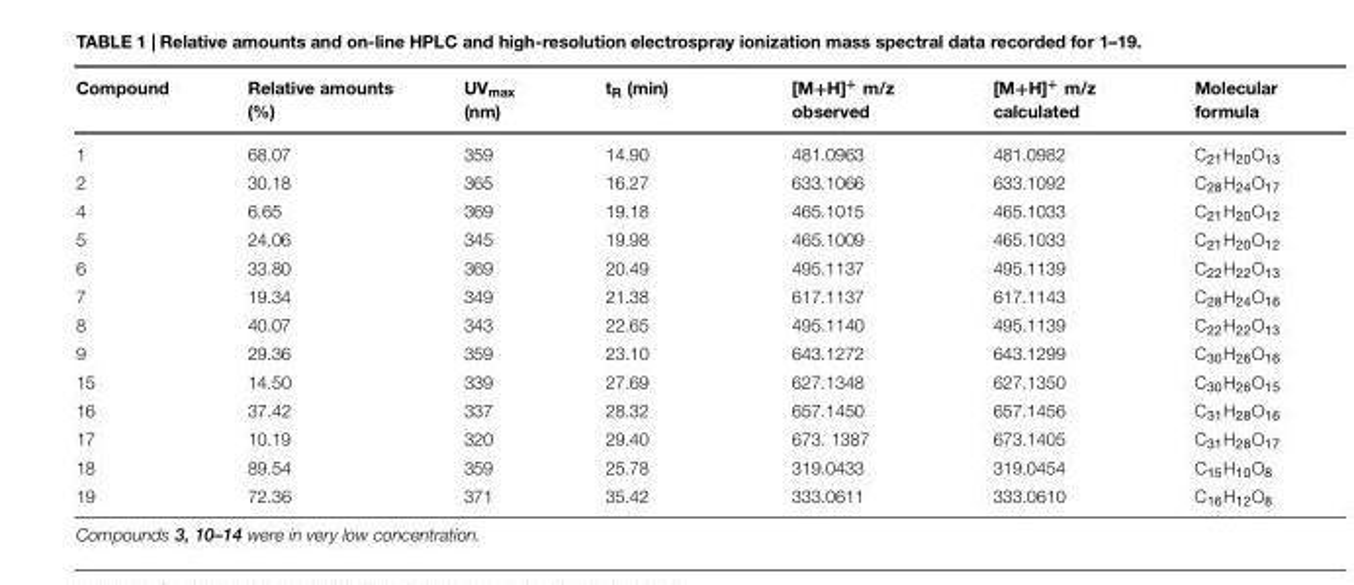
<table><thead><tr><td>Compound</td><td>Relative amounts (%)</td><td>UV<sub>max</sub> (nm)</td><td>t<sub>R</sub> (min)</td><td>[M+H]<sup>+</sup> m/z observed</td><td>[M+H]<sup>+</sup> m/z calculated</td><td>Molecular formula</td></tr></thead><tbody><tr><td>1</td><td>68.07</td><td>359</td><td>14.90</td><td>481.0963</td><td>481.0982</td><td>C<sub>21</sub>H<sub>20</sub>O<sub>13</sub></td></tr><tr><td>2</td><td>30.18</td><td>365</td><td>16.27</td><td>633.1066</td><td>633.1092</td><td>C<sub>28</sub>H<sub>24</sub>O<sub>17</sub></td></tr><tr><td>4</td><td>6.65</td><td>369</td><td>19.18</td><td>465.1015</td><td>465.1033</td><td>C<sub>21</sub>H<sub>20</sub>O<sub>12</sub></td></tr><tr><td>5</td><td>24.06</td><td>345</td><td>19.98</td><td>465.1009</td><td>465.1033</td><td>C<sub>21</sub>H<sub>20</sub>O<sub>12</sub></td></tr><tr><td>6</td><td>33.80</td><td>369</td><td>20.49</td><td>495.1137</td><td>495.1139</td><td>C<sub>22</sub>H<sub>22</sub>O<sub>13</sub></td></tr><tr><td>7</td><td>19.34</td><td>349</td><td>21.38</td><td>617.1137</td><td>617.1143</td><td>C<sub>28</sub>H<sub>24</sub>O<sub>16</sub></td></tr><tr><td>8</td><td>40.07</td><td>343</td><td>22.65</td><td>495.1140</td><td>495.1139</td><td>C<sub>22</sub>H<sub>22</sub>O<sub>13</sub></td></tr><tr><td>9</td><td>29.36</td><td>359</td><td>23.10</td><td>643.1272</td><td>643.1299</td><td>C<sub>30</sub>H<sub>26</sub>O<sub>16</sub></td></tr><tr><td>15</td><td>14.50</td><td>339</td><td>27.69</td><td>627.1348</td><td>627.1350</td><td>C<sub>30</sub>H<sub>26</sub>O<sub>15</sub></td></tr><tr><td>16</td><td>37.42</td><td>337</td><td>28.32</td><td>657.1450</td><td>657.1456</td><td>C<sub>31</sub>H<sub>28</sub>O<sub>16</sub></td></tr><tr><td>17</td><td>10.19</td><td>320</td><td>29.40</td><td>673. 1387</td><td>673.1405</td><td>C<sub>31</sub>H<sub>28</sub>O<sub>17</sub></td></tr><tr><td>18</td><td>89.54</td><td>359</td><td>25.78</td><td>319.0433</td><td>319.0454</td><td>C<sub>15</sub>H<sub>10</sub>O<sub>8</sub></td></tr><tr><td>19</td><td>72.36</td><td>371</td><td>35.42</td><td>333.0611</td><td>333.0610</td><td>C<sub>16</sub>H<sub>12</sub>O<sub>8</sub></td></tr></tbody></table>